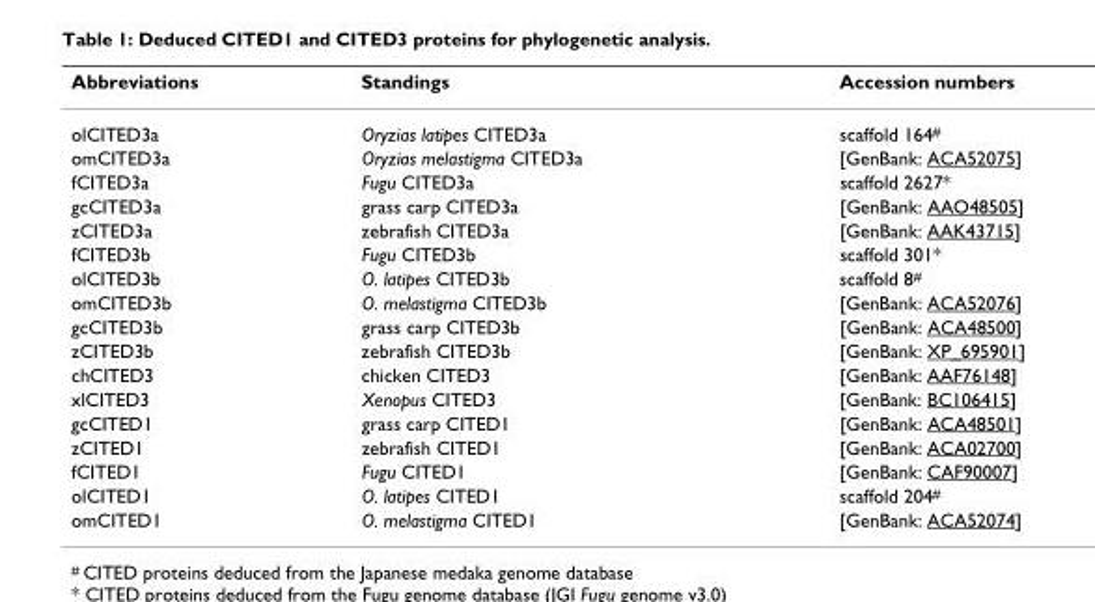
<table><thead><tr><td>Abbreviations</td><td>Standings</td><td>Accession numbers</td></tr></thead><tbody><tr><td>olCITED3a</td><td>Oryzias latipes CITED3a</td><td>scaffold 164<sup>#</sup></td></tr><tr><td>omCITED3a</td><td>Oryzias melastigma CITED3a</td><td>[GenBank: ACA52075]</td></tr><tr><td>fCITED3a</td><td>Fugu CITED3a</td><td>scaffold 2627*</td></tr><tr><td>gcCITED3a</td><td>grass carp CITED3a</td><td>[GenBank: AAO48505]</td></tr><tr><td>zCITED3a</td><td>zebrafish CITED3a</td><td>[GenBank: AAK43715]</td></tr><tr><td>fCITED3b</td><td>Fugu CITED3b</td><td>scaffold 301*</td></tr><tr><td>olCITED3b</td><td>O. latipes CITED3b</td><td>scaffold 8<sup>#</sup></td></tr><tr><td>omCITED3b</td><td>O. melastigma CITED3b</td><td>[GenBank: ACA52076]</td></tr><tr><td>gcCITED3b</td><td>grass carp CITED3b</td><td>[GenBank: ACA48500]</td></tr><tr><td>zCITED3b</td><td>zebrafish CITED3b</td><td>[GenBank: XP_695901]</td></tr><tr><td>chCITED3</td><td>chicken CITED3</td><td>[GenBank: AAF76148]</td></tr><tr><td>xlCITED3</td><td>Xenopus CITED3</td><td>[GenBank: BC106415]</td></tr><tr><td>gcCITED1</td><td>grass carp CITED1</td><td>[GenBank: ACA48501]</td></tr><tr><td>zCITED1</td><td>zebrafish CITED1</td><td>[GenBank: ACA02700]</td></tr><tr><td>fCITED1</td><td>Fugu CITED1</td><td>[GenBank: CAF90007]</td></tr><tr><td>olCITED1</td><td>O. latipes CITED1</td><td>scaffold 204<sup>#</sup></td></tr><tr><td>omCITED1</td><td>O. melastigma CITED1</td><td>[GenBank: ACA52074]</td></tr></tbody></table>